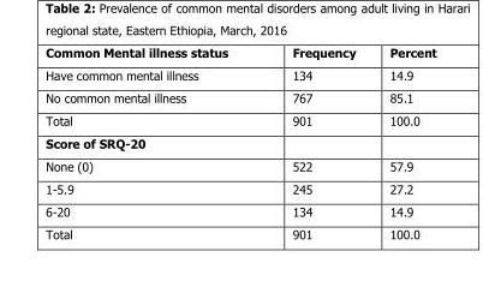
<table><thead><tr><td>Common Mental illness status</td><td>Frequency</td><td>Percent</td></tr></thead><tbody><tr><td>Have common mental illness</td><td>134</td><td>14.9</td></tr><tr><td>No common mental illness</td><td>767</td><td>85.1</td></tr><tr><td>Total</td><td>901</td><td>100.0</td></tr><tr><td colspan="3">Score of SRQ-20</td></tr><tr><td>None (0)</td><td>522</td><td>57.9</td></tr><tr><td>1-5.9</td><td>245</td><td>27.2</td></tr><tr><td>6-20</td><td>134</td><td>14.9</td></tr><tr><td>Total</td><td>901</td><td>100.0</td></tr></tbody></table>